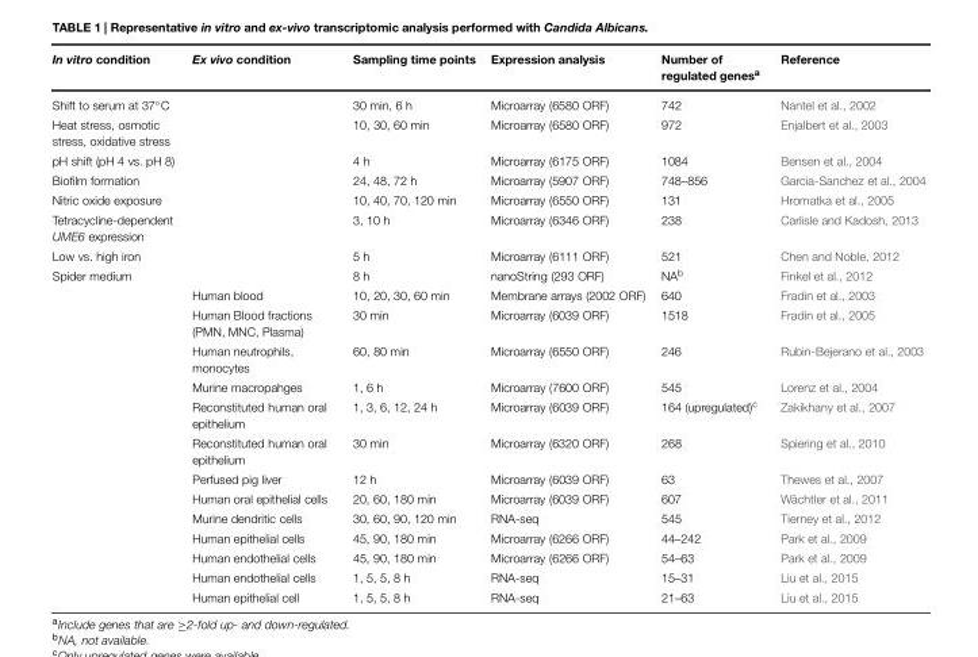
<table><thead><tr><td>In vitro condition</td><td>Ex vivo condition</td><td>Sampling time points</td><td>Expression analysis</td><td>Number of regulated genes<sup>a</sup></td><td>Reference</td></tr></thead><tbody><tr><td>Shift to serum at 37◦C</td><td></td><td>30 min, 6 h</td><td>Microarray (6580 ORF)</td><td>742</td><td>Nantel et al., 2002</td></tr><tr><td>Heat stress, osmotic stress, oxidative stress</td><td></td><td>10, 30, 60 min</td><td>Microarray (6580 ORF)</td><td>972</td><td>Enjalbert et al., 2003</td></tr><tr><td>pH shift (pH 4 vs. pH 8)</td><td></td><td>4 h</td><td>Microarray (6175 ORF)</td><td>1084</td><td>Bensen et al., 2004</td></tr><tr><td>Biofilm formation</td><td></td><td>24, 48, 72 h</td><td>Microarray (5907 ORF)</td><td>748–856</td><td>Garcia-Sanchez et al., 2004</td></tr><tr><td>Nitric oxide exposure</td><td></td><td>10, 40, 70, 120 min</td><td>Microarray (6550 ORF)</td><td>131</td><td>Hromatka et al., 2005</td></tr><tr><td>Tetracycline-dependent UME6 expression</td><td></td><td>3, 10 h</td><td>Microarray (6346 ORF)</td><td>238</td><td>Carlisle and Kadosh, 2013</td></tr><tr><td>Low vs. high iron</td><td></td><td>5 h</td><td>Microarray (6111 ORF)</td><td>521</td><td>Chen and Noble, 2012</td></tr><tr><td rowspan="14">Spider medium</td><td></td><td>8 h</td><td>nanoString (293 ORF)</td><td>NA<sup>b</sup></td><td>Finkel et al., 2012</td></tr><tr><td>Human blood</td><td>10, 20, 30, 60 min</td><td>Membrane arrays (2002 ORF)</td><td>640</td><td>Fradin et al., 2003</td></tr><tr><td>Human Blood fractions (PMN, MNC, Plasma)</td><td>30 min</td><td>Microarray (6039 ORF)</td><td>1518</td><td>Fradin et al., 2005</td></tr><tr><td>Human neutrophils, monocytes</td><td>60, 80 min</td><td>Microarray (6550 ORF)</td><td>246</td><td>Rubin-Bejerano et al., 2003</td></tr><tr><td>Murine macropahges</td><td>1, 6 h</td><td>Microarray (7600 ORF)</td><td>545</td><td>Lorenz et al., 2004</td></tr><tr><td>Reconstituted human oral epithelium</td><td>1, 3, 6, 12, 24 h</td><td>Microarray (6039 ORF)</td><td>164 (upregulated)<sup>c</sup></td><td>Zakikhany et al., 2007</td></tr><tr><td>Reconstituted human oral epithelium</td><td>30 min</td><td>Microarray (6320 ORF)</td><td>268</td><td>Spiering et al., 2010</td></tr><tr><td>Perfused pig liver</td><td>12 h</td><td>Microarray (6039 ORF)</td><td>63</td><td>Thewes et al., 2007</td></tr><tr><td>Human oral epithelial cells</td><td>20, 60, 180 min</td><td>Microarray (6039 ORF)</td><td>607</td><td>Wächtler et al., 2011</td></tr><tr><td>Murine dendritic cells</td><td>30, 60, 90, 120 min</td><td>RNA-seq</td><td>545</td><td>Tierney et al., 2012</td></tr><tr><td>Human epithelial cells</td><td>45, 90, 180 min</td><td>Microarray (6266 ORF)</td><td>44–242</td><td>Park et al., 2009</td></tr><tr><td>Human endothelial cells</td><td>45, 90, 180 min</td><td>Microarray (6266 ORF)</td><td>54–63</td><td>Park et al., 2009</td></tr><tr><td>Human endothelial cells</td><td>1, 5, 5, 8 h</td><td>RNA-seq</td><td>15–31</td><td>Liu et al., 2015</td></tr><tr><td>Human epithelial cell</td><td>1, 5, 5, 8 h</td><td>RNA-seq</td><td>21–63</td><td>Liu et al., 2015</td></tr></tbody></table>